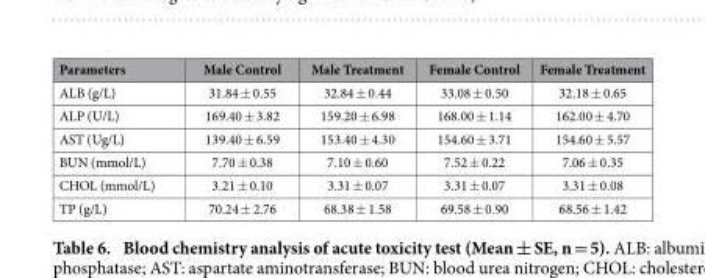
<table><thead><tr><td>Parameters</td><td>Male Control</td><td>Male Treatment</td><td>Female Control</td><td>Female Treatment</td></tr></thead><tbody><tr><td>ALB (g/L)</td><td>31.84 ± 0.55</td><td>32.84 ± 0.44</td><td>33.08 ± 0.50</td><td>32.18 ± 0.65</td></tr><tr><td>ALP (U/L)</td><td>169.40 ± 3.82</td><td>159.20 ± 6.98</td><td>168.00 ± 1.14</td><td>162.00 ± 4.70</td></tr><tr><td>AST (Ug/L)</td><td>139.40 ± 6.59</td><td>153.40 ± 4.30</td><td>154.60 ± 3.71</td><td>154.60 ± 5.57</td></tr><tr><td>BUN (mmol/L)</td><td>7.70 ± 0.38</td><td>7.10 ± 0.60</td><td>7.52 ± 0.22</td><td>7.06 ± 0.35</td></tr><tr><td>CHOL (mmol/L)</td><td>3.21 ± 0.10</td><td>3.31 ± 0.07</td><td>3.31 ± 0.07</td><td>3.31 ± 0.08</td></tr><tr><td>TP (g/L)</td><td>70.24 ± 2.76</td><td>68.38 ± 1.58</td><td>69.58 ± 0.90</td><td>68.56 ± 1.42</td></tr></tbody></table>